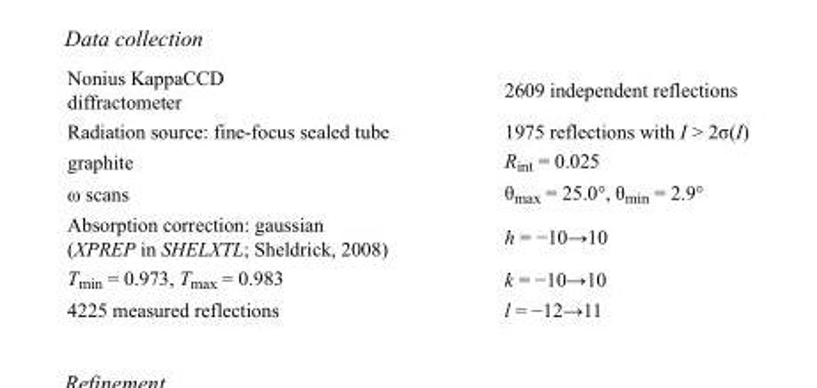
<table><tbody><tr><td>Nonius KappaCCD diffractometer</td><td>2609 independent reflections</td></tr><tr><td>Radiation source: fine-focus sealed tube</td><td>1975 reflections with I &gt; 2σ(I)</td></tr><tr><td>graphite</td><td>R<sub>int</sub> = 0.025</td></tr><tr><td>ω scans</td><td>θ<sub>max</sub> = 25.0°, θ<sub>min</sub> = 2.9°</td></tr><tr><td>Absorption correction: gaussian (XPREP in SHELXTL; Sheldrick, 2008)</td><td>h = −10→10</td></tr><tr><td>T<sub>min</sub> = 0.973, T<sub>max</sub> = 0.983</td><td>k = −10→10</td></tr><tr><td>4225 measured reflections</td><td>l = −12→11</td></tr></tbody></table>